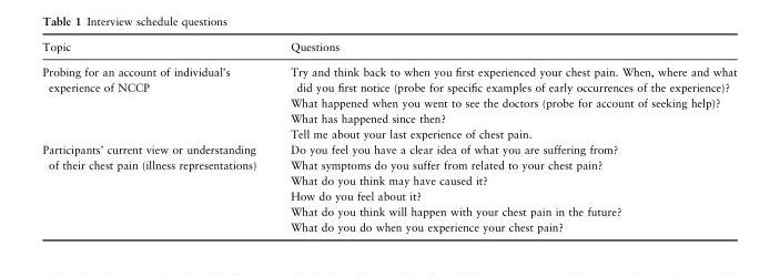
<table><thead><tr><td>Topic</td><td>Questions</td></tr></thead><tbody><tr><td rowspan="4">Probing for an account of individual’s experience of NCCP</td><td>Try and think back to when you first experienced your chest pain. When, where and what did you first notice (probe for specific examples of early occurrences of the experience)?</td></tr><tr><td>What happened when you went to see the doctors (probe for account of seeking help)?</td></tr><tr><td>What has happened since then?</td></tr><tr><td>Tell me about your last experience of chest pain.</td></tr><tr><td rowspan="6">Participants’ current view or understanding of their chest pain (illness representations)</td><td>Do you feel you have a clear idea of what you are suffering from?</td></tr><tr><td>What symptoms do you suffer from related to your chest pain?</td></tr><tr><td>What do you think may have caused it?</td></tr><tr><td>How do you feel about it?</td></tr><tr><td>What do you think will happen with your chest pain in the future?</td></tr><tr><td>What do you do when you experience your chest pain?</td></tr></tbody></table>